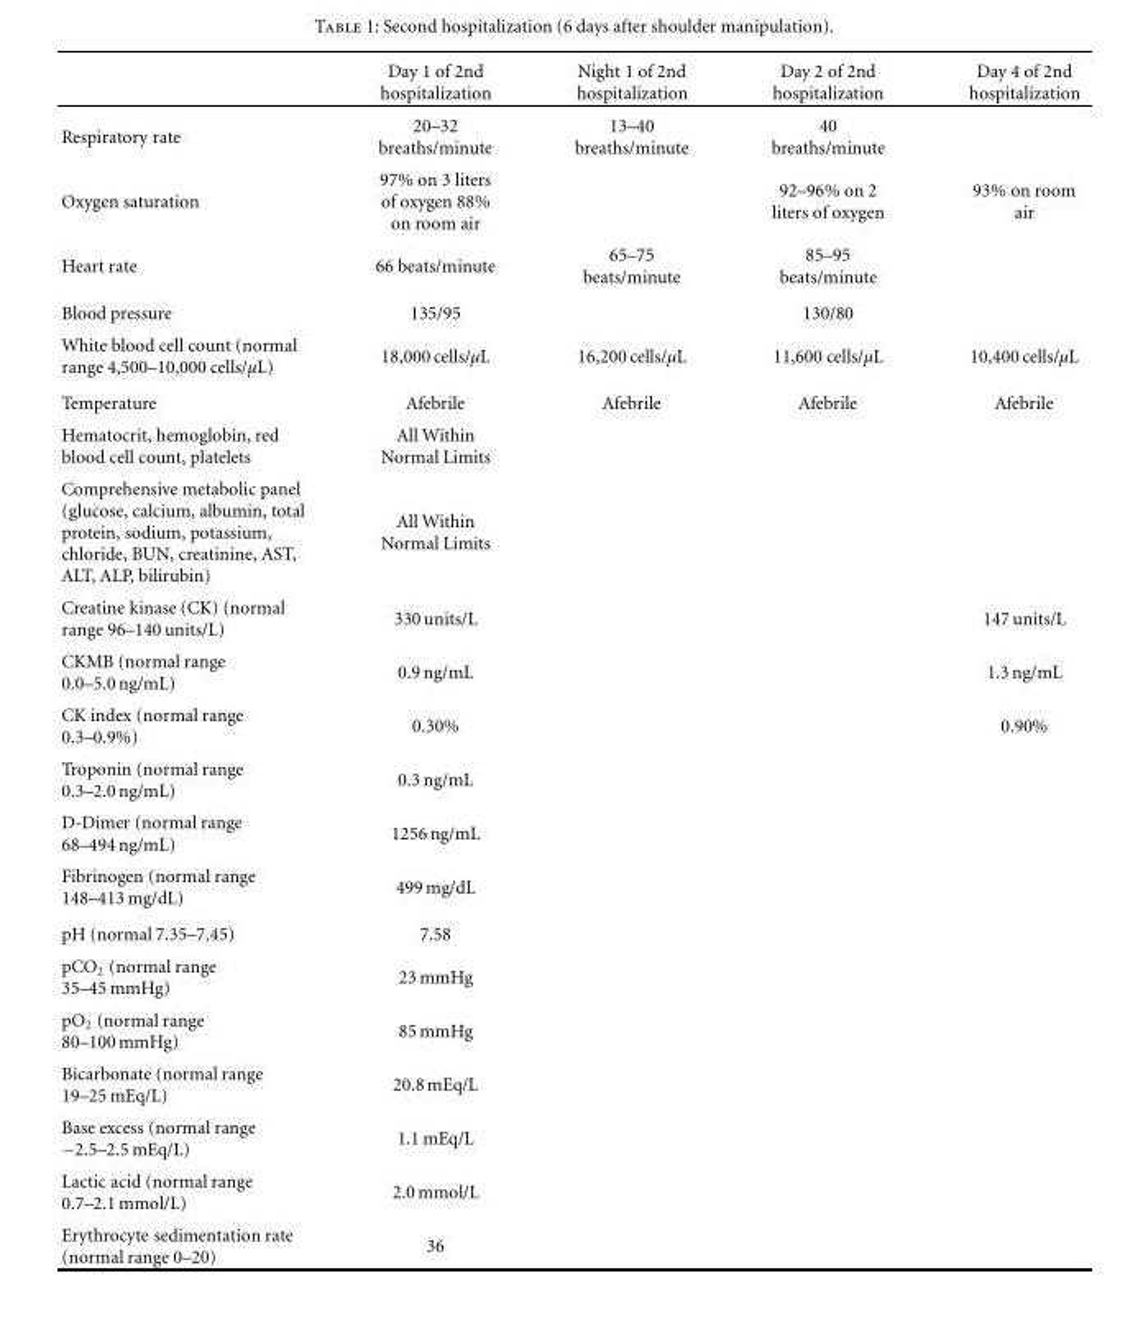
<table><thead><tr><td></td><td>Day 1 of 2nd hospitalization</td><td>Night 1 of 2nd hospitalization</td><td>Day 2 of 2nd hospitalization</td><td>Day 4 of 2nd hospitalization</td></tr></thead><tbody><tr><td>Respiratory rate</td><td>20–32 breaths/minute</td><td>13–40 breaths/minute</td><td>40 breaths/minute</td><td></td></tr><tr><td>Oxygen saturation</td><td>97% on 3 liters of oxygen 88% on room air</td><td></td><td>92–96% on 2 liters of oxygen</td><td>93% on room air</td></tr><tr><td>Heart rate</td><td>66 beats/minute</td><td>65–75 beats/minute</td><td>85–95 beats/minute</td><td></td></tr><tr><td>Blood pressure</td><td>135/95</td><td></td><td>130/80</td><td></td></tr><tr><td>White blood cell count (normal range 4,500–10,000 cells/µL)</td><td>18,000 cells/µL</td><td>16,200 cells/µL</td><td>11,600 cells/µL</td><td>10,400 cells/µL</td></tr><tr><td>Temperature</td><td>Afebrile</td><td>Afebrile</td><td>Afebrile</td><td>Afebrile</td></tr><tr><td>Hematocrit, hemoglobin, red blood cell count, platelets</td><td>All Within Normal Limits</td><td></td><td></td><td></td></tr><tr><td>Comprehensive metabolic panel (glucose, calcium, albumin, total protein, sodium, potassium, chloride, BUN, creatinine, AST, ALT, ALP, bilirubin)</td><td>All Within Normal Limits</td><td></td><td></td><td></td></tr><tr><td>Creatine kinase (CK) (normal range 96–140 units/L)</td><td>330 units/L</td><td></td><td></td><td>147 units/L</td></tr><tr><td>CKMB (normal range 0.0–5.0 ng/mL)</td><td>0.9 ng/mL</td><td></td><td></td><td>1.3 ng/mL</td></tr><tr><td>CK index (normal range 0.3–0.9%)</td><td>0.30%</td><td></td><td></td><td>0.90%</td></tr><tr><td>Troponin (normal range 0.3–2.0 ng/mL)</td><td>0.3 ng/mL</td><td></td><td></td><td></td></tr><tr><td>D-Dimer (normal range 68–494 ng/mL)</td><td>1256 ng/mL</td><td></td><td></td><td></td></tr><tr><td>Fibrinogen (normal range 148–413 mg/dL)</td><td>499 mg/dL</td><td></td><td></td><td></td></tr><tr><td>pH (normal 7.35–7.45)</td><td>7.58</td><td></td><td></td><td></td></tr><tr><td>pCO<sub>2</sub> (normal range 35–45 mmHg)</td><td>23 mmHg</td><td></td><td></td><td></td></tr><tr><td>pO<sub>2</sub> (normal range 80–100 mmHg)</td><td>85 mmHg</td><td></td><td></td><td></td></tr><tr><td>Bicarbonate (normal range 19–25 mEq/L)</td><td>20.8mEq/L</td><td></td><td></td><td></td></tr><tr><td>Base excess (normal range −2.5–2.5 mEq/L)</td><td>1.1 mEq/L</td><td></td><td></td><td></td></tr><tr><td>Lactic acid (normal range 0.7–2.1 mmol/L)</td><td>2.0 mmol/L</td><td></td><td></td><td></td></tr><tr><td>Erythrocyte sedimentation rate (normal range 0–20)</td><td>36</td><td></td><td></td><td></td></tr></tbody></table>